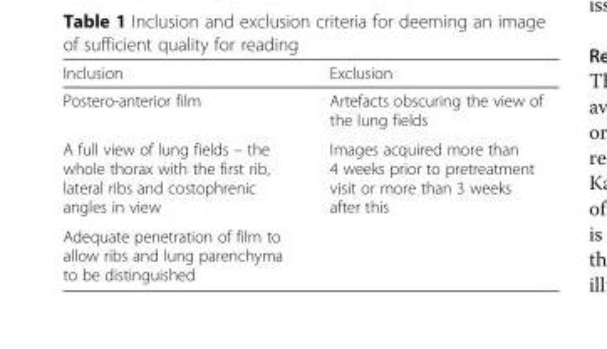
<table><thead><tr><td>Inclusion</td><td>Exclusion</td></tr></thead><tbody><tr><td>Postero-anterior film</td><td>Artefacts obscuring the view of the lung fields</td></tr><tr><td>A full view of lung fields – the whole thorax with the first rib, lateral ribs and costophrenic angles in view</td><td>Images acquired more than 4 weeks prior to pretreatment visit or more than 3 weeks after this</td></tr><tr><td>Adequate penetration of film to allow ribs and lung parenchyma to be distinguished</td><td></td></tr></tbody></table>